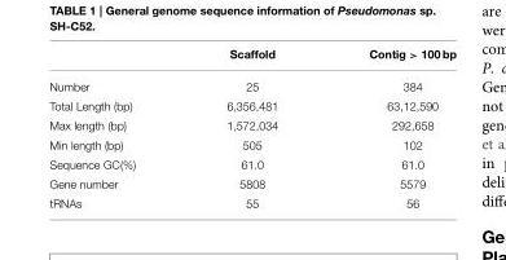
<table><thead><tr><td></td><td>Scaffold</td><td>Contig &gt; 100 bp</td></tr></thead><tbody><tr><td>Number</td><td>25</td><td>384</td></tr><tr><td>Total Length (bp)</td><td>6,356,481</td><td>63,12,590</td></tr><tr><td>Max length (bp)</td><td>1,572,034</td><td>292,658</td></tr><tr><td>Min length (bp)</td><td>505</td><td>102</td></tr><tr><td>Sequence GC(%)</td><td>61.0</td><td>61.0</td></tr><tr><td>Gene number</td><td>5808</td><td>5579</td></tr><tr><td>tRNAs</td><td>55</td><td>56</td></tr></tbody></table>